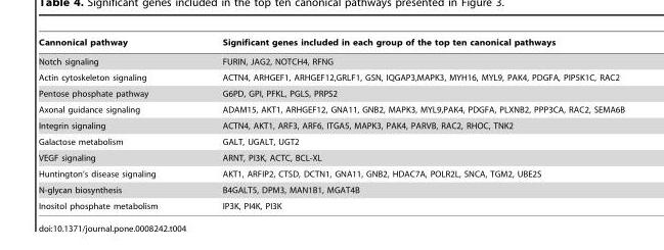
<table><thead><tr><td>Cannonical pathway</td><td>Significant genes included in each group of the top ten canonical pathways</td></tr></thead><tbody><tr><td>Notch signaling</td><td>FURIN, JAG2, NOTCH4, RFNG</td></tr><tr><td>Actin cytoskeleton signaling</td><td>ACTN4, ARHGEF1, ARHGEF12,GRLF1, GSN, IQGAP3,MAPK3, MYH16, MYL9, PAK4, PDGFA, PIP5K1C, RAC2</td></tr><tr><td>Pentose phosphate pathway</td><td>G6PD, GPI, PFKL, PGLS, PRPS2</td></tr><tr><td>Axonal guidance signaling</td><td>ADAM15, AKT1, ARHGEF12, GNA11, GNB2, MAPK3, MYL9,PAK4, PDGFA, PLXNB2, PPP3CA, RAC2, SEMA6B</td></tr><tr><td>Integrin signaling</td><td>ACTN4, AKT1, ARF3, ARF6, ITGA5, MAPK3, PAK4, PARVB, RAC2, RHOC, TNK2</td></tr><tr><td>Galactose metabolism</td><td>GALT, UGALT, UGT2</td></tr><tr><td>VEGF signaling</td><td>ARNT, PI3K, ACTC, BCL-XL</td></tr><tr><td>Huntington’s disease signaling</td><td>AKT1, ARFIP2, CTSD, DCTN1, GNA11, GNB2, HDAC7A, POLR2L, SNCA, TGM2, UBE2S</td></tr><tr><td>N-glycan biosynthesis</td><td>B4GALT5, DPM3, MAN1B1, MGAT4B</td></tr><tr><td>Inositol phosphate metabolism</td><td>IP3K, PI4K, PI3K</td></tr></tbody></table>